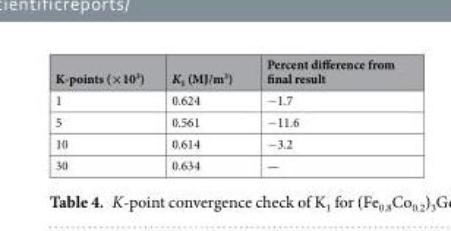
<table><thead><tr><td>K-points (×10<sup>3</sup>)</td><td>K<sub>1</sub> (MJ/m<sup>3</sup>)</td><td>Percent difference from final result</td></tr></thead><tbody><tr><td>1</td><td>0.624</td><td>−1.7</td></tr><tr><td>5</td><td>0.561</td><td>−11.6</td></tr><tr><td>10</td><td>0.614</td><td>−3.2</td></tr><tr><td>30</td><td>0.634</td><td>—</td></tr></tbody></table>